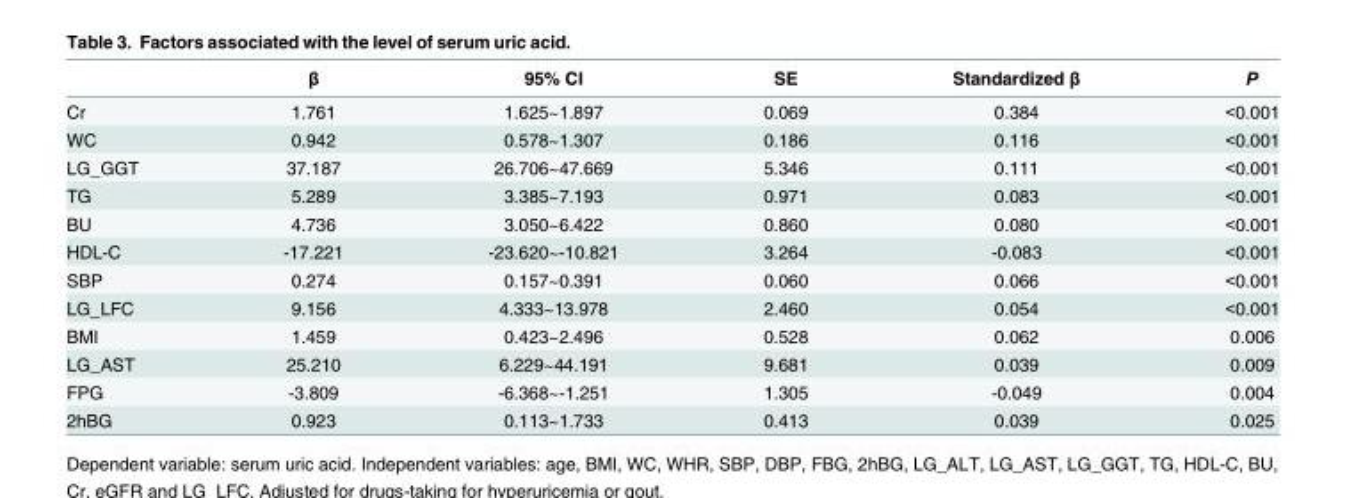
<table><thead><tr><td></td><td>β</td><td>95% CI</td><td>SE</td><td>Standardized β</td><td>P</td></tr></thead><tbody><tr><td>Cr</td><td>1.761</td><td>1.625~1.897</td><td>0.069</td><td>0.384</td><td>&lt;0.001</td></tr><tr><td>WC</td><td>0.942</td><td>0.578~1.307</td><td>0.186</td><td>0.116</td><td>&lt;0.001</td></tr><tr><td>LG_GGT</td><td>37.187</td><td>26.706~47.669</td><td>5.346</td><td>0.111</td><td>&lt;0.001</td></tr><tr><td>TG</td><td>5.289</td><td>3.385~7.193</td><td>0.971</td><td>0.083</td><td>&lt;0.001</td></tr><tr><td>BU</td><td>4.736</td><td>3.050~6.422</td><td>0.860</td><td>0.080</td><td>&lt;0.001</td></tr><tr><td>HDL-C</td><td>-17.221</td><td>-23.620~-10.821</td><td>3.264</td><td>-0.083</td><td>&lt;0.001</td></tr><tr><td>SBP</td><td>0.274</td><td>0.157~0.391</td><td>0.060</td><td>0.066</td><td>&lt;0.001</td></tr><tr><td>LG_LFC</td><td>9.156</td><td>4.333~13.978</td><td>2.460</td><td>0.054</td><td>&lt;0.001</td></tr><tr><td>BMI</td><td>1.459</td><td>0.423~2.496</td><td>0.528</td><td>0.062</td><td>0.006</td></tr><tr><td>LG_AST</td><td>25.210</td><td>6.229~44.191</td><td>9.681</td><td>0.039</td><td>0.009</td></tr><tr><td>FPG</td><td>-3.809</td><td>-6.368~-1.251</td><td>1.305</td><td>-0.049</td><td>0.004</td></tr><tr><td>2hBG</td><td>0.923</td><td>0.113~1.733</td><td>0.413</td><td>0.039</td><td>0.025</td></tr></tbody></table>